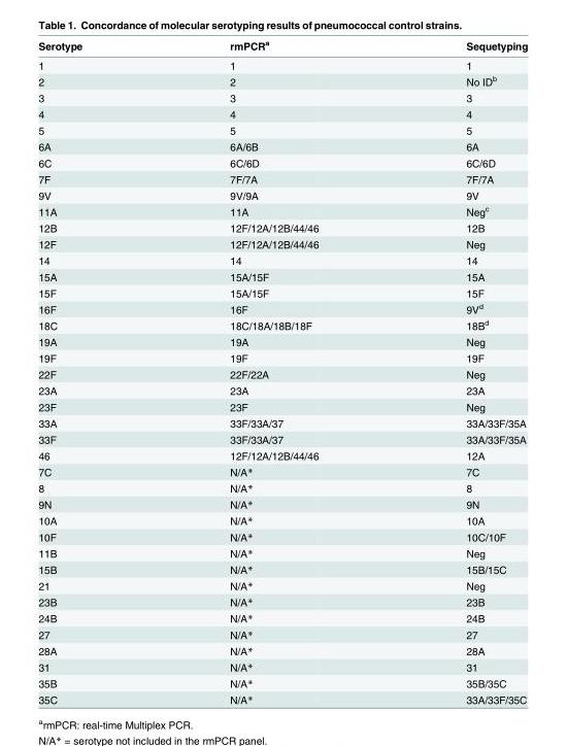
<table><thead><tr><td>Serotype</td><td>rmPCR<sup>a</sup></td><td>Sequetyping</td></tr></thead><tbody><tr><td>1</td><td>1</td><td>1</td></tr><tr><td>2</td><td>2</td><td>No ID<sup>b</sup></td></tr><tr><td>3</td><td>3</td><td>3</td></tr><tr><td>4</td><td>4</td><td>4</td></tr><tr><td>5</td><td>5</td><td>5</td></tr><tr><td>6A</td><td>6A/6B</td><td>6A</td></tr><tr><td>6C</td><td>6C/6D</td><td>6C/6D</td></tr><tr><td>7F</td><td>7F/7A</td><td>7F/7A</td></tr><tr><td>9V</td><td>9V/9A</td><td>9V</td></tr><tr><td>11A</td><td>11A</td><td>Neg<sup>c</sup></td></tr><tr><td>12B</td><td>12F/12A/12B/44/46</td><td>12B</td></tr><tr><td>12F</td><td>12F/12A/12B/44/46</td><td>Neg</td></tr><tr><td>14</td><td>14</td><td>14</td></tr><tr><td>15A</td><td>15A/15F</td><td>15A</td></tr><tr><td>15F</td><td>15A/15F</td><td>15F</td></tr><tr><td>16F</td><td>16F</td><td>9V<sup>d</sup></td></tr><tr><td>18C</td><td>18C/18A/18B/18F</td><td>18B<sup>d</sup></td></tr><tr><td>19A</td><td>19A</td><td>Neg</td></tr><tr><td>19F</td><td>19F</td><td>19F</td></tr><tr><td>22F</td><td>22F/22A</td><td>Neg</td></tr><tr><td>23A</td><td>23A</td><td>23A</td></tr><tr><td>23F</td><td>23F</td><td>Neg</td></tr><tr><td>33A</td><td>33F/33A/37</td><td>33A/33F/35A</td></tr><tr><td>33F</td><td>33F/33A/37</td><td>33A/33F/35A</td></tr><tr><td>46</td><td>12F/12A/12B/44/46</td><td>12A</td></tr><tr><td>7C</td><td>N/A*</td><td>7C</td></tr><tr><td>8</td><td>N/A*</td><td>8</td></tr><tr><td>9N</td><td>N/A*</td><td>9N</td></tr><tr><td>10A</td><td>N/A*</td><td>10A</td></tr><tr><td>10F</td><td>N/A*</td><td>10C/10F</td></tr><tr><td>11B</td><td>N/A*</td><td>Neg</td></tr><tr><td>15B</td><td>N/A*</td><td>15B/15C</td></tr><tr><td>21</td><td>N/A*</td><td>Neg</td></tr><tr><td>23B</td><td>N/A*</td><td>23B</td></tr><tr><td>24B</td><td>N/A*</td><td>24B</td></tr><tr><td>27</td><td>N/A*</td><td>27</td></tr><tr><td>28A</td><td>N/A*</td><td>28A</td></tr><tr><td>31</td><td>N/A*</td><td>31</td></tr><tr><td>35B</td><td>N/A*</td><td>35B/35C</td></tr><tr><td>35C</td><td>N/A*</td><td>33A/33F/35C</td></tr></tbody></table>